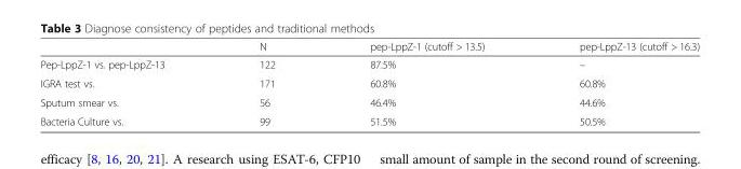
<table><thead><tr><td></td><td>N</td><td>pep-LppZ-1 (cutoff &gt; 13.5)</td><td>pep-LppZ-13 (cutoff &gt; 16.3)</td></tr></thead><tbody><tr><td>Pep-LppZ-1 vs. pep-LppZ-13</td><td>122</td><td>87.5%</td><td>–</td></tr><tr><td>IGRA test vs.</td><td>171</td><td>60.8%</td><td>60.8%</td></tr><tr><td>Sputum smear vs.</td><td>56</td><td>46.4%</td><td>44.6%</td></tr><tr><td>Bacteria Culture vs.</td><td>99</td><td>51.5%</td><td>50.5%</td></tr></tbody></table>